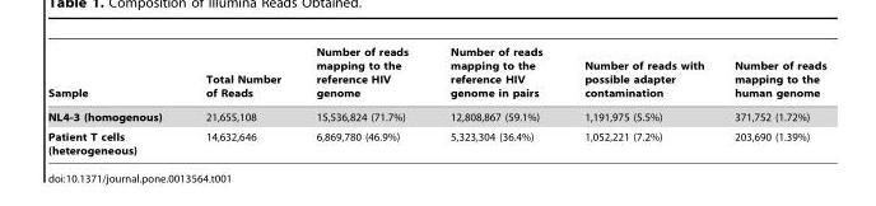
<table><thead><tr><td>Sample</td><td>Total Number of Reads</td><td>Number of reads mapping to the reference HIV genome</td><td>Number of reads mapping to the reference HIV genome in pairs</td><td>Number of reads with possible adapter contamination</td><td>Number of reads mapping to the human genome</td></tr></thead><tbody><tr><td>NL4-3 (homogenous)</td><td>21,655,108</td><td>15,536,824 (71.7%)</td><td>12,808,867 (59.1%)</td><td>1,191,975 (5.5%)</td><td>371,752 (1.72%)</td></tr><tr><td>Patient T cells (heterogeneous)</td><td>14,632,646</td><td>6,869,780 (46.9%)</td><td>5,323,304 (36.4%)</td><td>1,052,221 (7.2%)</td><td>203,690 (1.39%)</td></tr></tbody></table>